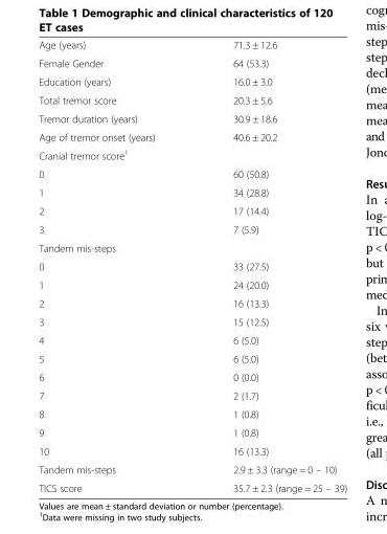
<table><tbody><tr><td>Age (years)</td><td>71.3 ± 12.6</td></tr><tr><td>Female Gender</td><td>64 (53.3)</td></tr><tr><td>Education (years)</td><td>16.0 ± 3.0</td></tr><tr><td>Total tremor score</td><td>20.3 ± 5.6</td></tr><tr><td>Tremor duration (years)</td><td>30.9 ± 18.6</td></tr><tr><td>Age of tremor onset (years)</td><td>40.6 ± 20.2</td></tr><tr><td colspan="2">Cranial tremor score<sup>1</sup></td></tr><tr><td>0</td><td>60 (50.8)</td></tr><tr><td>1</td><td>34 (28.8)</td></tr><tr><td>2</td><td>17 (14.4)</td></tr><tr><td>3</td><td>7 (5.9)</td></tr><tr><td colspan="2">Tandem mis-steps</td></tr><tr><td>0</td><td>33 (27.5)</td></tr><tr><td>1</td><td>24 (20.0)</td></tr><tr><td>2</td><td>16 (13.3)</td></tr><tr><td>3</td><td>15 (12.5)</td></tr><tr><td>4</td><td>6 (5.0)</td></tr><tr><td>5</td><td>6 (5.0)</td></tr><tr><td>6</td><td>0 (0.0)</td></tr><tr><td>7</td><td>2 (1.7)</td></tr><tr><td>8</td><td>1 (0.8)</td></tr><tr><td>9</td><td>1 (0.8)</td></tr><tr><td>10</td><td>16 (13.3)</td></tr><tr><td>Tandem mis-steps</td><td>2.9 ± 3.3 (range = 0 – 10)</td></tr><tr><td>TICS score</td><td>35.7 ± 2.3 (range = 25 – 39)</td></tr></tbody></table>